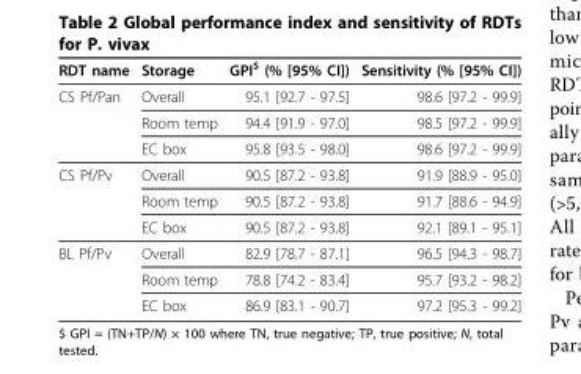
<table><thead><tr><td>RDT name</td><td>Storage</td><td>GPI<sup>$</sup> (% [95% CI])</td><td>Sensitivity (% [95% CI])</td></tr></thead><tbody><tr><td rowspan="3">CS Pf/Pan</td><td>Overall</td><td>95.1 [92.7 - 97.5]</td><td>98.6 [97.2 - 99.9]</td></tr><tr><td>Room temp</td><td>94.4 [91.9 - 97.0]</td><td>98.5 [97.2 - 99.9]</td></tr><tr><td>EC box</td><td>95.8 [93.5 - 98.0]</td><td>98.6 [97.2 - 99.9]</td></tr><tr><td rowspan="3">CS Pf/Pv</td><td>Overall</td><td>90.5 [87.2 - 93.8]</td><td>91.9 [88.9 - 95.0]</td></tr><tr><td>Room temp</td><td>90.5 [87.2 - 93.8]</td><td>91.7 [88.6 - 94.9]</td></tr><tr><td>EC box</td><td>90.5 [87.2 - 93.8]</td><td>92.1 [89.1 - 95.1]</td></tr><tr><td rowspan="3">BL Pf/Pv</td><td>Overall</td><td>82.9 [78.7 - 87.1]</td><td>96.5 [94.3 - 98.7]</td></tr><tr><td>Room temp</td><td>78.8 [74.2 - 83.4]</td><td>95.7 [93.2 - 98.2]</td></tr><tr><td>EC box</td><td>86.9 [83.1 - 90.7]</td><td>97.2 [95.3 - 99.2]</td></tr></tbody></table>